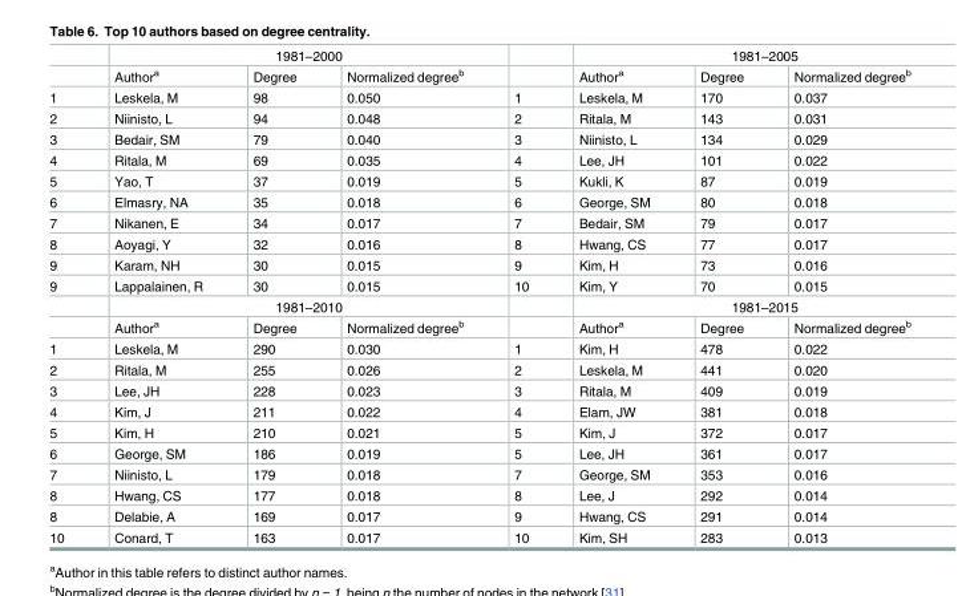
<table><thead><tr><td rowspan="2"></td><td colspan="3">1981–2000</td><td rowspan="2"></td><td colspan="3">1981–2005</td></tr><tr><td>Author<sup>a</sup></td><td>Degree</td><td>Normalized degree<sup>b</sup></td><td>Author<sup>a</sup></td><td>Degree</td><td>Normalized degree<sup>b</sup></td></tr></thead><tbody><tr><td>1</td><td>Leskela, M</td><td>98</td><td>0.050</td><td>1</td><td>Leskela, M</td><td>170</td><td>0.037</td></tr><tr><td>2</td><td>Niinisto, L</td><td>94</td><td>0.048</td><td>2</td><td>Ritala, M</td><td>143</td><td>0.031</td></tr><tr><td>3</td><td>Bedair, SM</td><td>79</td><td>0.040</td><td>3</td><td>Niinisto, L</td><td>134</td><td>0.029</td></tr><tr><td>4</td><td>Ritala, M</td><td>69</td><td>0.035</td><td>4</td><td>Lee, JH</td><td>101</td><td>0.022</td></tr><tr><td>5</td><td>Yao, T</td><td>37</td><td>0.019</td><td>5</td><td>Kukli, K</td><td>87</td><td>0.019</td></tr><tr><td>6</td><td>Elmasry, NA</td><td>35</td><td>0.018</td><td>6</td><td>George, SM</td><td>80</td><td>0.018</td></tr><tr><td>7</td><td>Nikanen, E</td><td>34</td><td>0.017</td><td>7</td><td>Bedair, SM</td><td>79</td><td>0.017</td></tr><tr><td>8</td><td>Aoyagi, Y</td><td>32</td><td>0.016</td><td>8</td><td>Hwang, CS</td><td>77</td><td>0.017</td></tr><tr><td>9</td><td>Karam, NH</td><td>30</td><td>0.015</td><td>9</td><td>Kim, H</td><td>73</td><td>0.016</td></tr><tr><td rowspan="3">9</td><td>Lappalainen, R</td><td>30</td><td>0.015</td><td>10</td><td>Kim, Y</td><td>70</td><td>0.015</td></tr><tr><td colspan="3">1981–2010</td><td></td><td colspan="3">1981–2015</td></tr><tr><td>Author<sup>a</sup></td><td>Degree</td><td>Normalized degree<sup>b</sup></td><td></td><td>Author<sup>a</sup></td><td>Degree</td><td>Normalized degree<sup>b</sup></td></tr><tr><td>1</td><td>Leskela, M</td><td>290</td><td>0.030</td><td>1</td><td>Kim, H</td><td>478</td><td>0.022</td></tr><tr><td>2</td><td>Ritala, M</td><td>255</td><td>0.026</td><td>2</td><td>Leskela, M</td><td>441</td><td>0.020</td></tr><tr><td>3</td><td>Lee, JH</td><td>228</td><td>0.023</td><td>3</td><td>Ritala, M</td><td>409</td><td>0.019</td></tr><tr><td>4</td><td>Kim, J</td><td>211</td><td>0.022</td><td>4</td><td>Elam, JW</td><td>381</td><td>0.018</td></tr><tr><td>5</td><td>Kim, H</td><td>210</td><td>0.021</td><td>5</td><td>Kim, J</td><td>372</td><td>0.017</td></tr><tr><td>6</td><td>George, SM</td><td>186</td><td>0.019</td><td>5</td><td>Lee, JH</td><td>361</td><td>0.017</td></tr><tr><td>7</td><td>Niinisto, L</td><td>179</td><td>0.018</td><td>7</td><td>George, SM</td><td>353</td><td>0.016</td></tr><tr><td>8</td><td>Hwang, CS</td><td>177</td><td>0.018</td><td>8</td><td>Lee, J</td><td>292</td><td>0.014</td></tr><tr><td>8</td><td>Delabie, A</td><td>169</td><td>0.017</td><td>9</td><td>Hwang, CS</td><td>291</td><td>0.014</td></tr><tr><td>10</td><td>Conard, T</td><td>163</td><td>0.017</td><td>10</td><td>Kim, SH</td><td>283</td><td>0.013</td></tr></tbody></table>